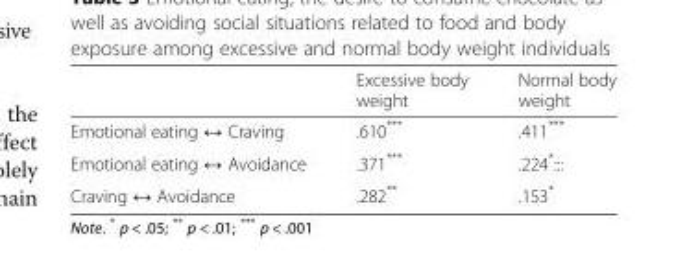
<table><thead><tr><td></td><td>Excessive body weight</td><td>Normal body weight</td></tr></thead><tbody><tr><td>Emotional eating ↔ Craving</td><td>.610***</td><td>.411***</td></tr><tr><td>Emotional eating ↔ Avoidance</td><td>.371***</td><td>.224*:::</td></tr><tr><td>Craving ↔ Avoidance</td><td>.282**</td><td>.153*</td></tr></tbody></table>